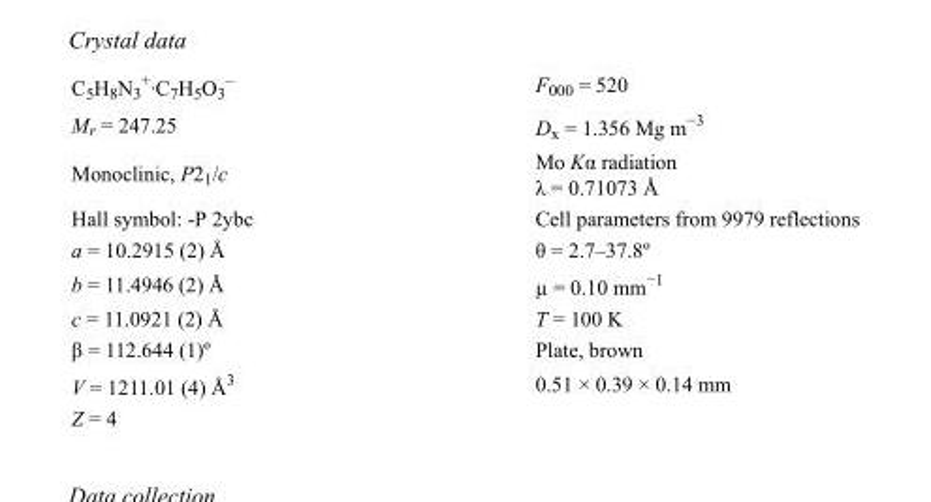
<table><tbody><tr><td>C<sub>5</sub>H<sub>8</sub>N<sub>3</sub> <sup>+</sup>·C<sub>7</sub>H<sub>5</sub>O<sub>3</sub> <sup>–</sup></td><td>F000 = 520</td></tr><tr><td>M<sub>r</sub> = 247.25</td><td>D<sub>x</sub> = 1.356 Mg m<sup>−3</sup></td></tr><tr><td>Monoclinic, P2<sub>1</sub>/c</td><td>Mo Kα radiation λ = 0.71073 Å</td></tr><tr><td>Hall symbol: -P 2ybc</td><td>Cell parameters from 9979 reflections</td></tr><tr><td>a = 10.2915 (2) Å</td><td>θ = 2.7–37.8º</td></tr><tr><td>b = 11.4946 (2) Å</td><td>µ = 0.10 mm<sup>−1</sup></td></tr><tr><td>c = 11.0921 (2) Å</td><td>T = 100 K</td></tr><tr><td>β = 112.644 (1)º</td><td>Plate, brown</td></tr><tr><td>V = 1211.01 (4) Å<sup>3</sup></td><td>0.51 × 0.39 × 0.14 mm</td></tr><tr><td>Z = 4</td><td></td></tr></tbody></table>